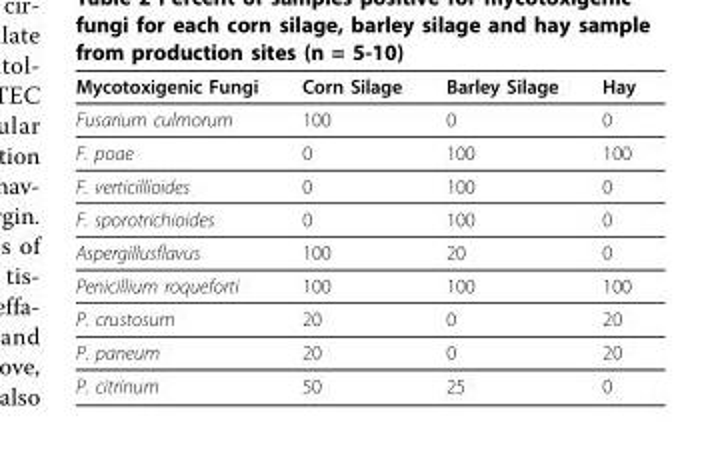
<table><thead><tr><td>Mycotoxigenic Fungi</td><td>Corn Silage</td><td>Barley Silage</td><td>Hay</td></tr></thead><tbody><tr><td>Fusarium culmorum</td><td>100</td><td>0</td><td>0</td></tr><tr><td>F. poae</td><td>0</td><td>100</td><td>100</td></tr><tr><td>F. verticillioides</td><td>0</td><td>100</td><td>0</td></tr><tr><td>F. sporotrichioides</td><td>0</td><td>100</td><td>0</td></tr><tr><td>Aspergillusflavus</td><td>100</td><td>20</td><td>0</td></tr><tr><td>Penicillium roqueforti</td><td>100</td><td>100</td><td>100</td></tr><tr><td>P. crustosum</td><td>20</td><td>0</td><td>20</td></tr><tr><td>P. paneum</td><td>20</td><td>0</td><td>20</td></tr><tr><td>P. citrinum</td><td>50</td><td>25</td><td>0</td></tr></tbody></table>